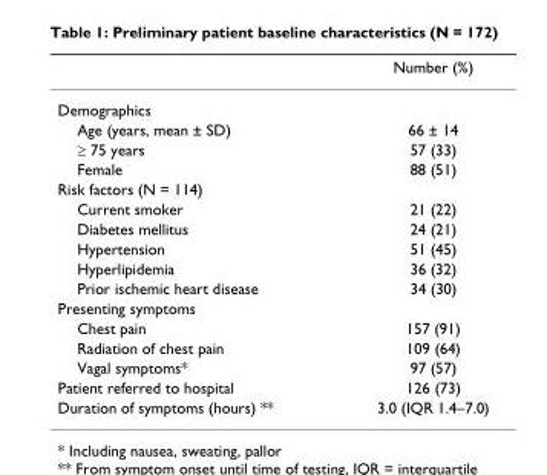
<table><thead><tr><td></td><td>Number (%)</td></tr></thead><tbody><tr><td colspan="2">Demographics</td></tr><tr><td>Age (years, mean ± SD)</td><td>66 ± 14</td></tr><tr><td>≥ 75 years</td><td>57 (33)</td></tr><tr><td>Female</td><td>88 (51)</td></tr><tr><td colspan="2">Risk factors (N = 114)</td></tr><tr><td>Current smoker</td><td>21 (22)</td></tr><tr><td>Diabetes mellitus</td><td>24 (21)</td></tr><tr><td>Hypertension</td><td>51 (45)</td></tr><tr><td>Hyperlipidemia</td><td>36 (32)</td></tr><tr><td>Prior ischemic heart disease</td><td>34 (30)</td></tr><tr><td colspan="2">Presenting symptoms</td></tr><tr><td>Chest pain</td><td>157 (91)</td></tr><tr><td>Radiation of chest pain</td><td>109 (64)</td></tr><tr><td>Vagal symptoms*</td><td>97 (57)</td></tr><tr><td>Patient referred to hospital</td><td>126 (73)</td></tr><tr><td>Duration of symptoms (hours) **</td><td>3.0 (IQR 1.4–7.0)</td></tr></tbody></table>